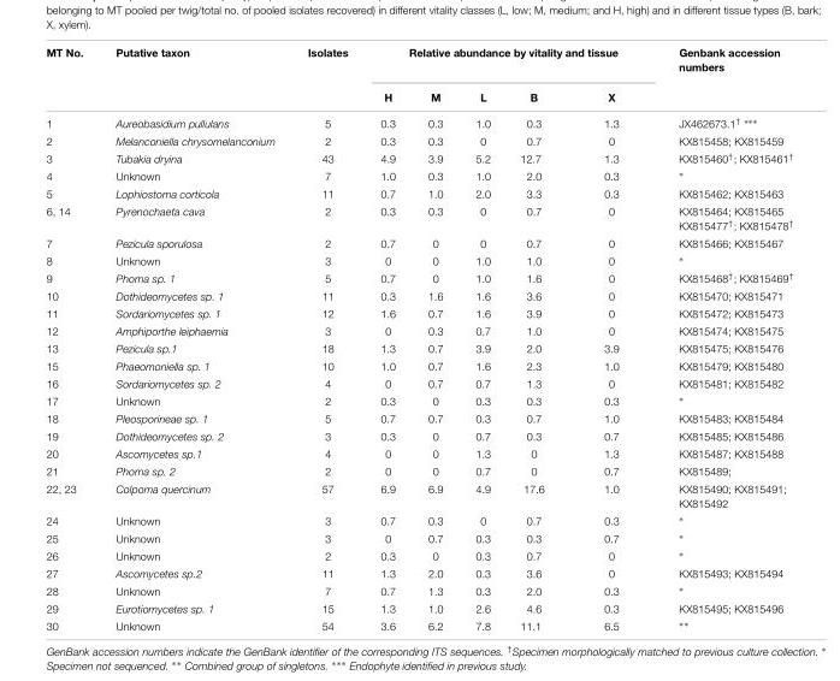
<table><thead><tr><td rowspan="2">MT No.</td><td rowspan="2">Putative taxon</td><td rowspan="2">Isolates</td><td colspan="5">Relative abundance by vitality and tissue</td><td rowspan="2">Genbank accession numbers</td></tr><tr><td>H</td><td>M</td><td>L</td><td>B</td><td>X</td></tr></thead><tbody><tr><td>1</td><td>Aureobasidium pullulans</td><td>5</td><td>0.3</td><td>0.3</td><td>1.0</td><td>0.3</td><td>1.3</td><td>JX462673.1<sup>† ∗∗∗</sup></td></tr><tr><td>2</td><td>Melanconiella chrysomelanconium</td><td>2</td><td>0.3</td><td>0.3</td><td>0</td><td>0.7</td><td>0</td><td>KX815458; KX815459</td></tr><tr><td>3</td><td>Tubakia dryina</td><td>43</td><td>4.9</td><td>3.9</td><td>5.2</td><td>12.7</td><td>1.3</td><td>KX815460<sup>†</sup>; KX815461<sup>†</sup></td></tr><tr><td>4</td><td>Unknown</td><td>7</td><td>1.0</td><td>0.3</td><td>1.0</td><td>2.0</td><td>0.3</td><td>∗</td></tr><tr><td>5</td><td>Lophiostoma corticola</td><td>11</td><td>0.7</td><td>1.0</td><td>2.0</td><td>3.3</td><td>0.3</td><td>KX815462; KX815463</td></tr><tr><td>6, 14</td><td>Pyrenochaeta cava</td><td>2</td><td>0.3</td><td>0.3</td><td>0</td><td>0.7</td><td>0</td><td>KX815464; KX815465 KX815477<sup>†</sup>; KX815478<sup>†</sup></td></tr><tr><td>7</td><td>Pezicula sporulosa</td><td>2</td><td>0.7</td><td>0</td><td>0</td><td>0.7</td><td>0</td><td>KX815466; KX815467</td></tr><tr><td>8</td><td>Unknown</td><td>3</td><td>0</td><td>0</td><td>1.0</td><td>1.0</td><td>0</td><td>∗</td></tr><tr><td>9</td><td>Phoma sp. 1</td><td>5</td><td>0.7</td><td>0</td><td>1.0</td><td>1.6</td><td>0</td><td>KX815468<sup>†</sup>; KX815469<sup>†</sup></td></tr><tr><td>10</td><td>Dothideomycetes sp. 1</td><td>11</td><td>0.3</td><td>1.6</td><td>1.6</td><td>3.6</td><td>0</td><td>KX815470; KX815471</td></tr><tr><td>11</td><td>Sordariomycetes sp. 1</td><td>12</td><td>1.6</td><td>0.7</td><td>1.6</td><td>3.9</td><td>0</td><td>KX815472; KX815473</td></tr><tr><td>12</td><td>Amphiporthe leiphaemia</td><td>3</td><td>0</td><td>0.3</td><td>0.7</td><td>1.0</td><td>0</td><td>KX815474; KX815475</td></tr><tr><td>13</td><td>Pezicula sp.1</td><td>18</td><td>1.3</td><td>0.7</td><td>3.9</td><td>2.0</td><td>3.9</td><td>KX815475; KX815476</td></tr><tr><td>15</td><td>Phaeomoniella sp. 1</td><td>10</td><td>1.0</td><td>0.7</td><td>1.6</td><td>2.3</td><td>1.0</td><td>KX815479; KX815480</td></tr><tr><td>16</td><td>Sordariomycetes sp. 2</td><td>4</td><td>0</td><td>0.7</td><td>0.7</td><td>1.3</td><td>0</td><td>KX815481; KX815482</td></tr><tr><td>17</td><td>Unknown</td><td>2</td><td>0.3</td><td>0</td><td>0.3</td><td>0.3</td><td>0.3</td><td>∗</td></tr><tr><td>18</td><td>Pleosporineae sp. 1</td><td>5</td><td>0.7</td><td>0.7</td><td>0.3</td><td>0.7</td><td>1.0</td><td>KX815483; KX815484</td></tr><tr><td>19</td><td>Dothideomycetes sp. 2</td><td>3</td><td>0.3</td><td>0</td><td>0.7</td><td>0.3</td><td>0.7</td><td>KX815485; KX815486</td></tr><tr><td>20</td><td>Ascomycetes sp.1</td><td>4</td><td>0</td><td>0</td><td>1.3</td><td>0</td><td>1.3</td><td>KX815487; KX815488</td></tr><tr><td>21</td><td>Phoma sp. 2</td><td>2</td><td>0</td><td>0</td><td>0.7</td><td>0</td><td>0.7</td><td>KX815489;</td></tr><tr><td>22, 23</td><td>Colpoma quercinum</td><td>57</td><td>6.9</td><td>6.9</td><td>4.9</td><td>17.6</td><td>1.0</td><td>KX815490; KX815491; KX815492</td></tr><tr><td>24</td><td>Unknown</td><td>3</td><td>0.7</td><td>0.3</td><td>0</td><td>0.7</td><td>0.3</td><td>∗</td></tr><tr><td>25</td><td>Unknown</td><td>3</td><td>0</td><td>0.7</td><td>0.3</td><td>0.3</td><td>0.7</td><td>∗</td></tr><tr><td>26</td><td>Unknown</td><td>2</td><td>0.3</td><td>0</td><td>0.3</td><td>0.7</td><td>0</td><td>∗</td></tr><tr><td>27</td><td>Ascomycetes sp.2</td><td>11</td><td>1.3</td><td>2.0</td><td>0.3</td><td>3.6</td><td>0</td><td>KX815493; KX815494</td></tr><tr><td>28</td><td>Unknown</td><td>7</td><td>0.7</td><td>1.3</td><td>0.3</td><td>2.0</td><td>0.3</td><td>∗</td></tr><tr><td>29</td><td>Eurotiomycetes sp. 1</td><td>15</td><td>1.3</td><td>1.0</td><td>2.6</td><td>4.6</td><td>0.3</td><td>KX815495; KX815496</td></tr><tr><td>30</td><td>Unknown</td><td>54</td><td>3.6</td><td>6.2</td><td>7.8</td><td>11.1</td><td>6.5</td><td>∗∗</td></tr></tbody></table>